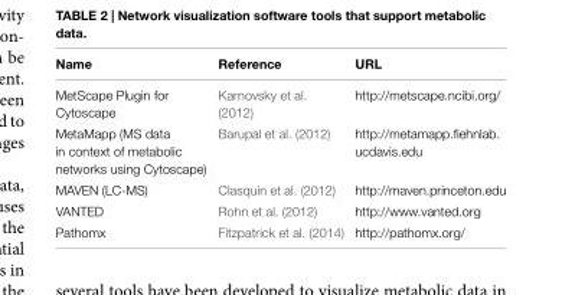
<table><thead><tr><td>Name</td><td>Reference</td><td>URL</td></tr></thead><tbody><tr><td>MetScape Plugin for Cytoscape</td><td>Karnovsky et al. (2012)</td><td>http://metscape.ncibi.org/</td></tr><tr><td>MetaMapp (MS data in context of metabolic networks using Cytoscape)</td><td>Barupal et al. (2012)</td><td>http://metamapp.fiehnlab. ucdavis.edu</td></tr><tr><td>MAVEN (LC-MS)</td><td>Clasquin et al. (2012)</td><td>http://maven.princeton.edu</td></tr><tr><td>VANTED</td><td>Rohn et al. (2012)</td><td>http://www.vanted.org</td></tr><tr><td>Pathomx</td><td>Fitzpatrick et al. (2014)</td><td>http://pathomx.org/</td></tr></tbody></table>